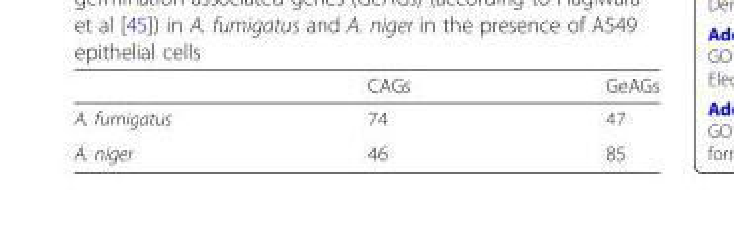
<table><thead><tr><td></td><td>CAGs</td><td>GeAGs</td></tr></thead><tbody><tr><td>A. fumigatus</td><td>74</td><td>47</td></tr><tr><td>A. niger</td><td>46</td><td>85</td></tr></tbody></table>